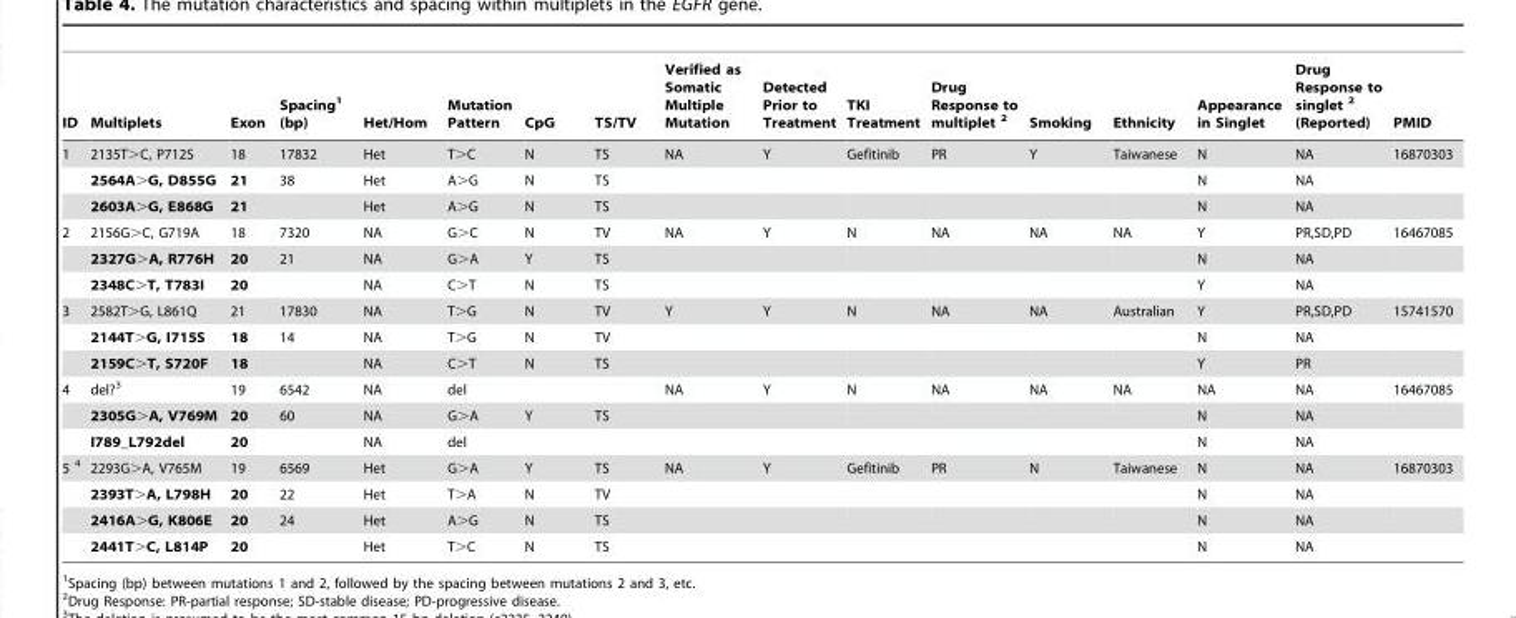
<table><thead><tr><td>ID</td><td>Multiplets</td><td>Exon</td><td>Spacing<sup>1</sup> (bp)</td><td>Het/Hom</td><td>Mutation Pattern</td><td>CpG</td><td>TS/TV</td><td>Verified as Somatic Multiple Mutation</td><td>Detected Prior to Treatment</td><td>TKI Treatment</td><td>Drug Response to multiplet 2</td><td>Smoking</td><td>Ethnicity</td><td>Appearance in Singlet</td><td>Drug Response to singlet 2 (Reported)</td><td>PMID</td></tr></thead><tbody><tr><td rowspan="3">1</td><td>2135T&gt;C, P712S</td><td>18</td><td>17832</td><td>Het</td><td>T&gt;C</td><td>N</td><td>TS</td><td>NA</td><td>Y</td><td>Gefitinib</td><td>PR</td><td>Y</td><td>Taiwanese</td><td>N</td><td>NA</td><td>16870303</td></tr><tr><td>2564A&gt;G, D855G</td><td>21</td><td>38</td><td>Het</td><td>A&gt;G</td><td>N</td><td>TS</td><td></td><td></td><td></td><td></td><td></td><td></td><td>N</td><td>NA</td><td></td></tr><tr><td>2603A&gt;G, E868G</td><td>21</td><td></td><td>Het</td><td>A&gt;G</td><td>N</td><td>TS</td><td></td><td></td><td></td><td></td><td></td><td></td><td>N</td><td>NA</td><td></td></tr><tr><td rowspan="3">2</td><td>2156G&gt;C, G719A</td><td>18</td><td>7320</td><td>NA</td><td>G&gt;C</td><td>N</td><td>TV</td><td>NA</td><td>Y</td><td>N</td><td>NA</td><td>NA</td><td>NA</td><td>Y</td><td>PR,SD,PD</td><td>16467085</td></tr><tr><td>2327G&gt;A, R776H</td><td>20</td><td>21</td><td>NA</td><td>G&gt;A</td><td>Y</td><td>TS</td><td></td><td></td><td></td><td></td><td></td><td></td><td>N</td><td>NA</td><td></td></tr><tr><td>2348C&gt;T, T783I</td><td>20</td><td></td><td>NA</td><td>C&gt;T</td><td>N</td><td>TS</td><td></td><td></td><td></td><td></td><td></td><td></td><td>Y</td><td>NA</td><td></td></tr><tr><td rowspan="3">3</td><td>2582T&gt;G, L861Q</td><td>21</td><td>17830</td><td>NA</td><td>T&gt;G</td><td>N</td><td>TV</td><td>Y</td><td>Y</td><td>N</td><td>NA</td><td>NA</td><td>Australian</td><td>Y</td><td>PR,SD,PD</td><td>15741570</td></tr><tr><td>2144T&gt;G, I715S</td><td>18</td><td>14</td><td>NA</td><td>T&gt;G</td><td>N</td><td>TV</td><td></td><td></td><td></td><td></td><td></td><td></td><td>N</td><td>NA</td><td></td></tr><tr><td>2159C&gt;T, S720F</td><td>18</td><td></td><td>NA</td><td>C&gt;T</td><td>N</td><td>TS</td><td></td><td></td><td></td><td></td><td></td><td></td><td>Y</td><td>PR</td><td></td></tr><tr><td rowspan="3">4</td><td>del?<sup>3</sup></td><td>19</td><td>6542</td><td>NA</td><td>del</td><td></td><td></td><td>NA</td><td>Y</td><td>N</td><td>NA</td><td>NA</td><td>NA</td><td>NA</td><td>NA</td><td>16467085</td></tr><tr><td>2305G&gt;A, V769M</td><td>20</td><td>60</td><td>NA</td><td>G&gt;A</td><td>Y</td><td>TS</td><td></td><td></td><td></td><td></td><td></td><td></td><td>N</td><td>NA</td><td></td></tr><tr><td>I789_L792del</td><td>20</td><td></td><td>NA</td><td>del</td><td></td><td></td><td></td><td></td><td></td><td></td><td></td><td></td><td>N</td><td>NA</td><td></td></tr><tr><td rowspan="4">5 4</td><td>2293G&gt;A, V765M</td><td>19</td><td>6569</td><td>Het</td><td>G&gt;A</td><td>Y</td><td>TS</td><td>NA</td><td>Y</td><td>Gefitinib</td><td>PR</td><td>N</td><td>Taiwanese</td><td>N</td><td>NA</td><td>16870303</td></tr><tr><td>2393T&gt;A, L798H</td><td>20</td><td>22</td><td>Het</td><td>T&gt;A</td><td>N</td><td>TV</td><td></td><td></td><td></td><td></td><td></td><td></td><td>N</td><td>NA</td><td></td></tr><tr><td>2416A&gt;G, K806E</td><td>20</td><td>24</td><td>Het</td><td>A&gt;G</td><td>N</td><td>TS</td><td></td><td></td><td></td><td></td><td></td><td></td><td>N</td><td>NA</td><td></td></tr><tr><td>2441T&gt;C, L814P</td><td>20</td><td></td><td>Het</td><td>T&gt;C</td><td>N</td><td>TS</td><td></td><td></td><td></td><td></td><td></td><td></td><td>N</td><td>NA</td><td></td></tr></tbody></table>